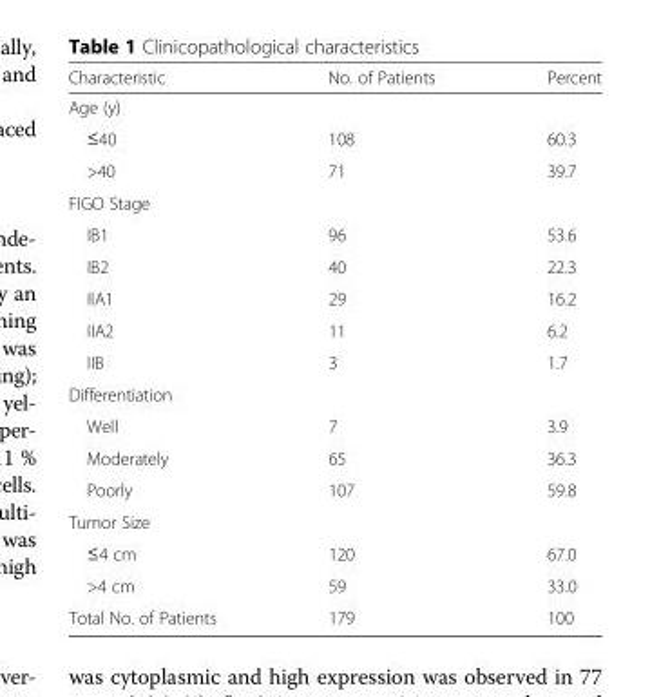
<table><thead><tr><td>Characteristic</td><td>No. of Patients</td><td>Percent</td></tr></thead><tbody><tr><td colspan="3">Age (y)</td></tr><tr><td>≤40</td><td>108</td><td>60.3</td></tr><tr><td>&gt;40</td><td>71</td><td>39.7</td></tr><tr><td colspan="3">FIGO Stage</td></tr><tr><td>IB1</td><td>96</td><td>53.6</td></tr><tr><td>IB2</td><td>40</td><td>22.3</td></tr><tr><td>IIA1</td><td>29</td><td>16.2</td></tr><tr><td>IIA2</td><td>11</td><td>6.2</td></tr><tr><td>IIB</td><td>3</td><td>1.7</td></tr><tr><td colspan="3">Differentiation</td></tr><tr><td>Well</td><td>7</td><td>3.9</td></tr><tr><td>Moderately</td><td>65</td><td>36.3</td></tr><tr><td>Poorly</td><td>107</td><td>59.8</td></tr><tr><td colspan="3">Tumor Size</td></tr><tr><td>≤4 cm</td><td>120</td><td>67.0</td></tr><tr><td>&gt;4 cm</td><td>59</td><td>33.0</td></tr><tr><td>Total No. of Patients</td><td>179</td><td>100</td></tr></tbody></table>